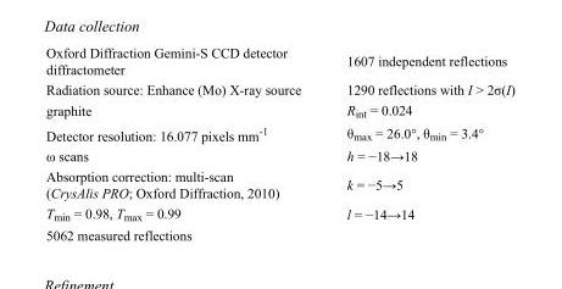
<table><tbody><tr><td>Oxford Diffraction Gemini-S CCD detector diffractometer</td><td>1607 independent reflections</td></tr><tr><td>Radiation source: Enhance (Mo) X-ray source</td><td>1290 reflections with I &gt; 2σ(I)</td></tr><tr><td>graphite</td><td>R<sub>int</sub> = 0.024</td></tr><tr><td>Detector resolution: 16.077 pixels mm<sup>-1</sup></td><td>θ<sub>max</sub> = 26.0°, θ<sub>min</sub> = 3.4°</td></tr><tr><td>ω scans</td><td>h = −18→18</td></tr><tr><td>Absorption correction: multi-scan (CrysAlis PRO; Oxford Diffraction, 2010)</td><td>k = −5→5</td></tr><tr><td>T<sub>min</sub> = 0.98, T<sub>max</sub> = 0.99</td><td>l = −14→14</td></tr><tr><td>5062 measured reflections</td><td></td></tr></tbody></table>